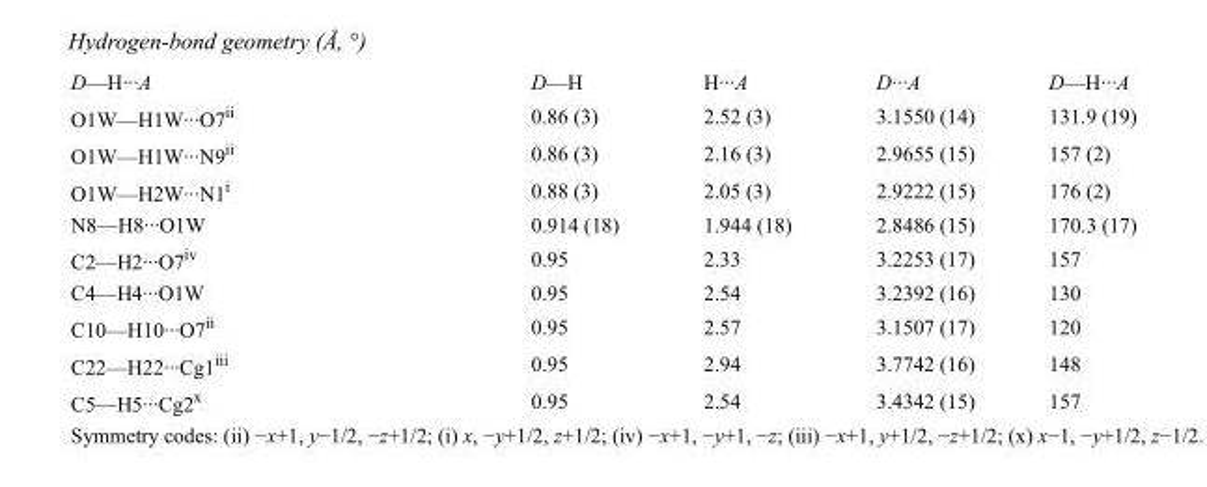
<table><tbody><tr><td>D—H···A</td><td>D—H</td><td>H···A</td><td>D···A</td><td>D—H···A</td></tr><tr><td>O1W—H1W···O7<sup>ii</sup></td><td>0.86 (3)</td><td>2.52 (3)</td><td>3.1550 (14)</td><td>131.9 (19)</td></tr><tr><td>O1W—H1W···N9<sup>ii</sup></td><td>0.86 (3)</td><td>2.16 (3)</td><td>2.9655 (15)</td><td>157 (2)</td></tr><tr><td>O1W—H2W···N1<sup>i</sup></td><td>0.88 (3)</td><td>2.05 (3)</td><td>2.9222 (15)</td><td>176 (2)</td></tr><tr><td>N8—H8···O1W</td><td>0.914 (18)</td><td>1.944 (18)</td><td>2.8486 (15)</td><td>170.3 (17)</td></tr><tr><td>C2—H2···O7<sup>iv</sup></td><td>0.95</td><td>2.33</td><td>3.2253 (17)</td><td>157</td></tr><tr><td>C4—H4···O1W</td><td>0.95</td><td>2.54</td><td>3.2392 (16)</td><td>130</td></tr><tr><td>C10—H10···O7<sup>ii</sup></td><td>0.95</td><td>2.57</td><td>3.1507 (17)</td><td>120</td></tr><tr><td>C22—H22···Cg1<sup>iii</sup></td><td>0.95</td><td>2.94</td><td>3.7742 (16)</td><td>148</td></tr><tr><td>C5—H5···Cg2<sup>x</sup></td><td>0.95</td><td>2.54</td><td>3.4342 (15)</td><td>157</td></tr></tbody></table>